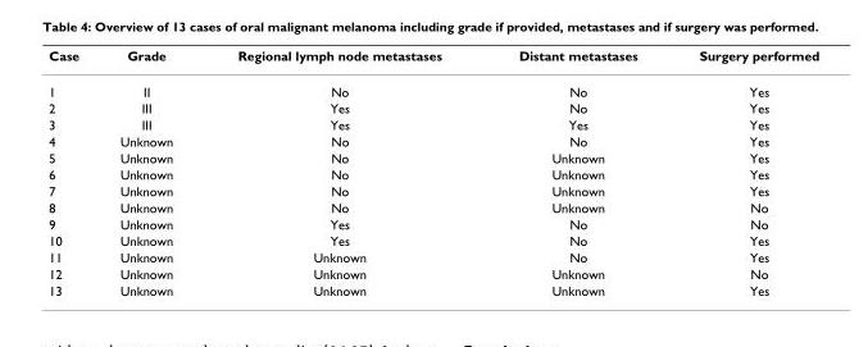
<table><thead><tr><td>Case</td><td>Grade</td><td>Regional lymph node metastases</td><td>Distant metastases</td><td>Surgery performed</td></tr></thead><tbody><tr><td>1</td><td>II</td><td>No</td><td>No</td><td>Yes</td></tr><tr><td>2</td><td>III</td><td>Yes</td><td>No</td><td>Yes</td></tr><tr><td>3</td><td>III</td><td>Yes</td><td>Yes</td><td>Yes</td></tr><tr><td>4</td><td>Unknown</td><td>No</td><td>No</td><td>Yes</td></tr><tr><td>5</td><td>Unknown</td><td>No</td><td>Unknown</td><td>Yes</td></tr><tr><td>6</td><td>Unknown</td><td>No</td><td>Unknown</td><td>Yes</td></tr><tr><td>7</td><td>Unknown</td><td>No</td><td>Unknown</td><td>Yes</td></tr><tr><td>8</td><td>Unknown</td><td>No</td><td>Unknown</td><td>No</td></tr><tr><td>9</td><td>Unknown</td><td>Yes</td><td>No</td><td>No</td></tr><tr><td>10</td><td>Unknown</td><td>Yes</td><td>No</td><td>Yes</td></tr><tr><td>11</td><td>Unknown</td><td>Unknown</td><td>No</td><td>Yes</td></tr><tr><td>12</td><td>Unknown</td><td>Unknown</td><td>Unknown</td><td>No</td></tr><tr><td>13</td><td>Unknown</td><td>Unknown</td><td>Unknown</td><td>Yes</td></tr></tbody></table>